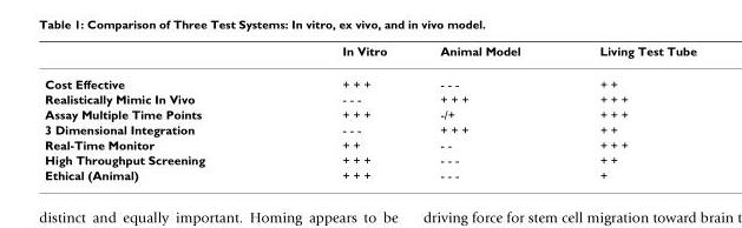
<table><thead><tr><td></td><td>In Vitro</td><td>Animal Model</td><td>Living Test Tube</td></tr></thead><tbody><tr><td>Cost Effective</td><td>+ + +</td><td>- - -</td><td>+ +</td></tr><tr><td>Realistically Mimic In Vivo</td><td>- - -</td><td>+ + +</td><td>+ + +</td></tr><tr><td>Assay Multiple Time Points</td><td>+ + +</td><td>-/+</td><td>+ + +</td></tr><tr><td>3 Dimensional Integration</td><td>- - -</td><td>+ + +</td><td>+ +</td></tr><tr><td>Real-Time Monitor</td><td>+ +</td><td>- -</td><td>+ + +</td></tr><tr><td>High Throughput Screening</td><td>+ + +</td><td>- - -</td><td>+ +</td></tr><tr><td>Ethical (Animal)</td><td>+ + +</td><td>- - -</td><td>+</td></tr></tbody></table>